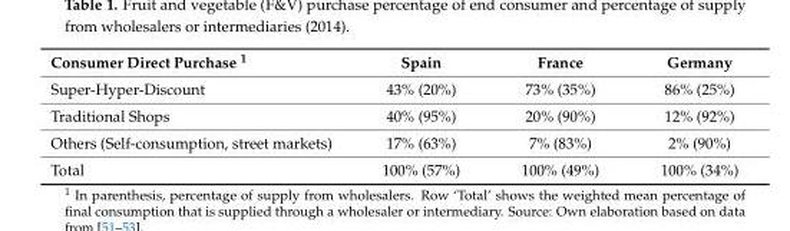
<table><thead><tr><td>Consumer Direct Purchase <sup>1</sup></td><td>Spain</td><td>France</td><td>Germany</td></tr></thead><tbody><tr><td>Super-Hyper-Discount</td><td>43% (20%)</td><td>73% (35%)</td><td>86% (25%)</td></tr><tr><td>Traditional Shops</td><td>40% (95%)</td><td>20% (90%)</td><td>12% (92%)</td></tr><tr><td>Others (Self-consumption, street markets)</td><td>17% (63%)</td><td>7% (83%)</td><td>2% (90%)</td></tr><tr><td>Total</td><td>100% (57%)</td><td>100% (49%)</td><td>100% (34%)</td></tr></tbody></table>